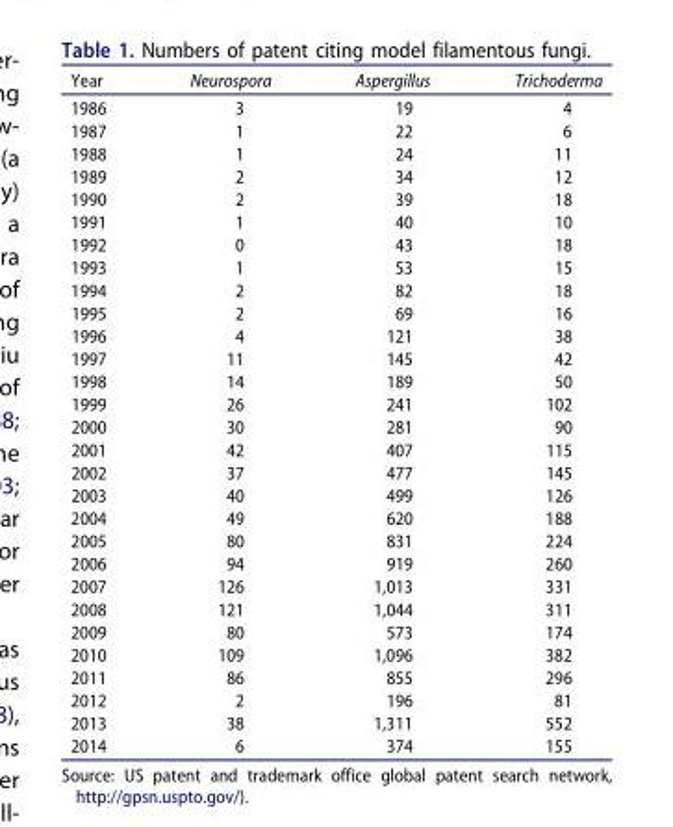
<table><thead><tr><td>Year</td><td>Neurospora</td><td>Aspergillus</td><td>Trichoderma</td></tr></thead><tbody><tr><td>1986</td><td>3</td><td>19</td><td>4</td></tr><tr><td>1987</td><td>1</td><td>22</td><td>6</td></tr><tr><td>1988</td><td>1</td><td>24</td><td>11</td></tr><tr><td>1989</td><td>2</td><td>34</td><td>12</td></tr><tr><td>1990</td><td>2</td><td>39</td><td>18</td></tr><tr><td>1991</td><td>1</td><td>40</td><td>10</td></tr><tr><td>1992</td><td>0</td><td>43</td><td>18</td></tr><tr><td>1993</td><td>1</td><td>53</td><td>15</td></tr><tr><td>1994</td><td>2</td><td>82</td><td>18</td></tr><tr><td>1995</td><td>2</td><td>69</td><td>16</td></tr><tr><td>1996</td><td>4</td><td>121</td><td>38</td></tr><tr><td>1997</td><td>11</td><td>145</td><td>42</td></tr><tr><td>1998</td><td>14</td><td>189</td><td>50</td></tr><tr><td>1999</td><td>26</td><td>241</td><td>102</td></tr><tr><td>2000</td><td>30</td><td>281</td><td>90</td></tr><tr><td>2001</td><td>42</td><td>407</td><td>115</td></tr><tr><td>2002</td><td>37</td><td>477</td><td>145</td></tr><tr><td>2003</td><td>40</td><td>499</td><td>126</td></tr><tr><td>2004</td><td>49</td><td>620</td><td>188</td></tr><tr><td>2005</td><td>80</td><td>831</td><td>224</td></tr><tr><td>2006</td><td>94</td><td>919</td><td>260</td></tr><tr><td>2007</td><td>126</td><td>1,013</td><td>331</td></tr><tr><td>2008</td><td>121</td><td>1,044</td><td>311</td></tr><tr><td>2009</td><td>80</td><td>573</td><td>174</td></tr><tr><td>2010</td><td>109</td><td>1,096</td><td>382</td></tr><tr><td>2011</td><td>86</td><td>855</td><td>296</td></tr><tr><td>2012</td><td>2</td><td>196</td><td>81</td></tr><tr><td>2013</td><td>38</td><td>1,311</td><td>552</td></tr><tr><td>2014</td><td>6</td><td>374</td><td>155</td></tr></tbody></table>